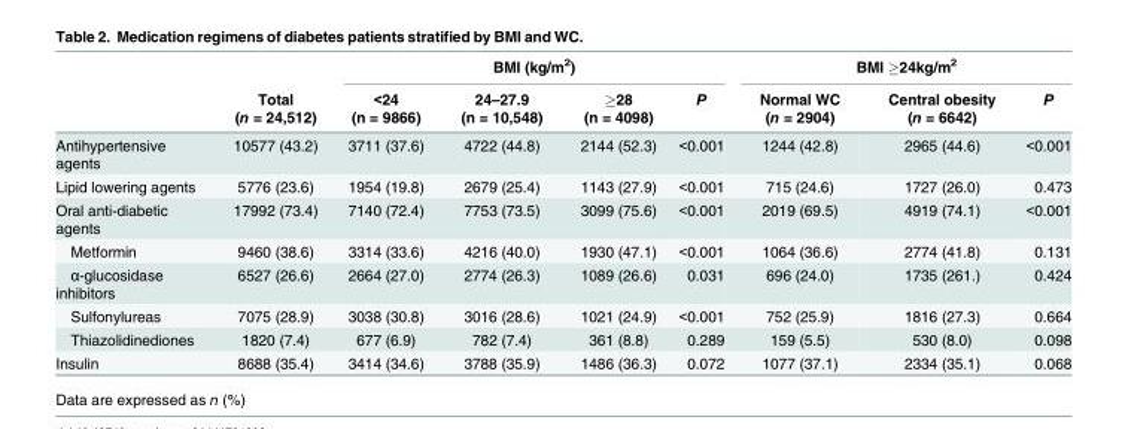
<table><thead><tr><td rowspan="2"></td><td rowspan="2">Total (n = 24,512)</td><td colspan="4">BMI (kg/m<sup>2</sup>)</td><td colspan="3">BMI ≥24kg/m<sup>2</sup></td></tr><tr><td>&lt;24 (n = 9866)</td><td>24–27.9 (n = 10,548)</td><td>≥28 (n = 4098)</td><td>P</td><td>Normal WC (n = 2904)</td><td>Central obesity (n = 6642)</td><td>P</td></tr></thead><tbody><tr><td>Antihypertensive agents</td><td>10577 (43.2)</td><td>3711 (37.6)</td><td>4722 (44.8)</td><td>2144 (52.3)</td><td>&lt;0.001</td><td>1244 (42.8)</td><td>2965 (44.6)</td><td>&lt;0.001</td></tr><tr><td>Lipid lowering agents</td><td>5776 (23.6)</td><td>1954 (19.8)</td><td>2679 (25.4)</td><td>1143 (27.9)</td><td>&lt;0.001</td><td>715 (24.6)</td><td>1727 (26.0)</td><td>0.473</td></tr><tr><td>Oral anti-diabetic agents</td><td>17992 (73.4)</td><td>7140 (72.4)</td><td>7753 (73.5)</td><td>3099 (75.6)</td><td>&lt;0.001</td><td>2019 (69.5)</td><td>4919 (74.1)</td><td>&lt;0.001</td></tr><tr><td>Metformin</td><td>9460 (38.6)</td><td>3314 (33.6)</td><td>4216 (40.0)</td><td>1930 (47.1)</td><td>&lt;0.001</td><td>1064 (36.6)</td><td>2774 (41.8)</td><td>0.131</td></tr><tr><td>α-glucosidase inhibitors</td><td>6527 (26.6)</td><td>2664 (27.0)</td><td>2774 (26.3)</td><td>1089 (26.6)</td><td>0.031</td><td>696 (24.0)</td><td>1735 (261.)</td><td>0.424</td></tr><tr><td>Sulfonylureas</td><td>7075 (28.9)</td><td>3038 (30.8)</td><td>3016 (28.6)</td><td>1021 (24.9)</td><td>&lt;0.001</td><td>752 (25.9)</td><td>1816 (27.3)</td><td>0.664</td></tr><tr><td>Thiazolidinediones</td><td>1820 (7.4)</td><td>677 (6.9)</td><td>782 (7.4)</td><td>361 (8.8)</td><td>0.289</td><td>159 (5.5)</td><td>530 (8.0)</td><td>0.098</td></tr><tr><td>Insulin</td><td>8688 (35.4)</td><td>3414 (34.6)</td><td>3788 (35.9)</td><td>1486 (36.3)</td><td>0.072</td><td>1077 (37.1)</td><td>2334 (35.1)</td><td>0.068</td></tr></tbody></table>